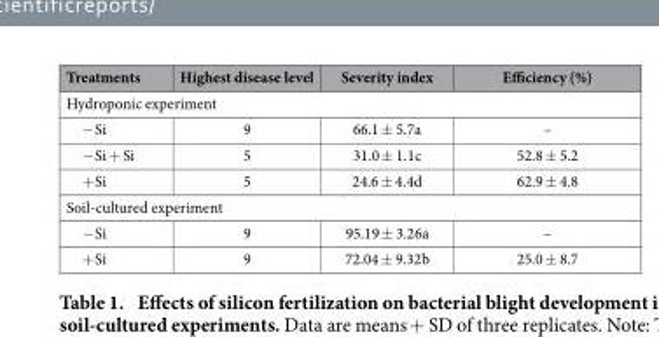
<table><thead><tr><td>Treatments</td><td>Highest disease level</td><td>Severity index</td><td>Efficiency (%)</td></tr></thead><tbody><tr><td colspan="4">Hydroponic experiment</td></tr><tr><td>− Si</td><td>9</td><td>66.1 ± 5.7a</td><td>–</td></tr><tr><td>− Si + Si</td><td>5</td><td>31.0 ± 1.1c</td><td>52.8 ± 5.2</td></tr><tr><td>+ Si</td><td>5</td><td>24.6 ± 4.4d</td><td>62.9 ± 4.8</td></tr><tr><td colspan="4">Soil-cultured experiment</td></tr><tr><td>− Si</td><td>9</td><td>95.19 ± 3.26a</td><td>–</td></tr><tr><td>+ Si</td><td>9</td><td>72.04 ± 9.32b</td><td>25.0 ± 8.7</td></tr></tbody></table>